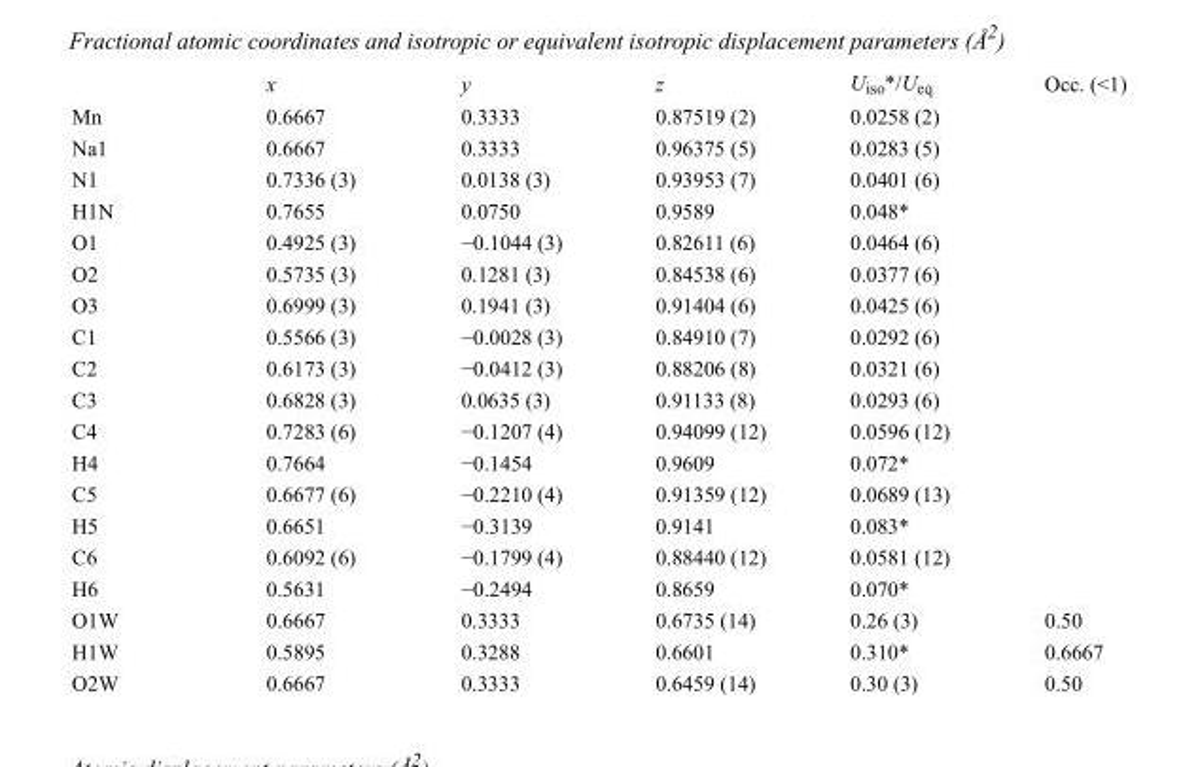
<table><thead><tr><td></td><td>x</td><td>y</td><td>z</td><td>U<sub>iso</sub>*/U<sub>eq</sub></td><td>Occ. (&lt;1)</td></tr></thead><tbody><tr><td>Mn</td><td>0.6667</td><td>0.3333</td><td>0.87519 (2)</td><td>0.0258 (2)</td><td></td></tr><tr><td>Na1</td><td>0.6667</td><td>0.3333</td><td>0.96375 (5)</td><td>0.0283 (5)</td><td></td></tr><tr><td>N1</td><td>0.7336 (3)</td><td>0.0138 (3)</td><td>0.93953 (7)</td><td>0.0401 (6)</td><td></td></tr><tr><td>H1N</td><td>0.7655</td><td>0.0750</td><td>0.9589</td><td>0.048*</td><td></td></tr><tr><td>O1</td><td>0.4925 (3)</td><td>−0.1044 (3)</td><td>0.82611 (6)</td><td>0.0464 (6)</td><td></td></tr><tr><td>O2</td><td>0.5735 (3)</td><td>0.1281 (3)</td><td>0.84538 (6)</td><td>0.0377 (6)</td><td></td></tr><tr><td>O3</td><td>0.6999 (3)</td><td>0.1941 (3)</td><td>0.91404 (6)</td><td>0.0425 (6)</td><td></td></tr><tr><td>C1</td><td>0.5566 (3)</td><td>−0.0028 (3)</td><td>0.84910 (7)</td><td>0.0292 (6)</td><td></td></tr><tr><td>C2</td><td>0.6173 (3)</td><td>−0.0412 (3)</td><td>0.88206 (8)</td><td>0.0321 (6)</td><td></td></tr><tr><td>C3</td><td>0.6828 (3)</td><td>0.0635 (3)</td><td>0.91133 (8)</td><td>0.0293 (6)</td><td></td></tr><tr><td>C4</td><td>0.7283 (6)</td><td>−0.1207 (4)</td><td>0.94099 (12)</td><td>0.0596 (12)</td><td></td></tr><tr><td>H4</td><td>0.7664</td><td>−0.1454</td><td>0.9609</td><td>0.072*</td><td></td></tr><tr><td>C5</td><td>0.6677 (6)</td><td>−0.2210 (4)</td><td>0.91359 (12)</td><td>0.0689 (13)</td><td></td></tr><tr><td>H5</td><td>0.6651</td><td>−0.3139</td><td>0.9141</td><td>0.083*</td><td></td></tr><tr><td>C6</td><td>0.6092 (6)</td><td>−0.1799 (4)</td><td>0.88440 (12)</td><td>0.0581 (12)</td><td></td></tr><tr><td>H6</td><td>0.5631</td><td>−0.2494</td><td>0.8659</td><td>0.070*</td><td></td></tr><tr><td>O1W</td><td>0.6667</td><td>0.3333</td><td>0.6735 (14)</td><td>0.26 (3)</td><td>0.50</td></tr><tr><td>H1W</td><td>0.5895</td><td>0.3288</td><td>0.6601</td><td>0.310*</td><td>0.6667</td></tr><tr><td>O2W</td><td>0.6667</td><td>0.3333</td><td>0.6459 (14)</td><td>0.30 (3)</td><td>0.50</td></tr></tbody></table>